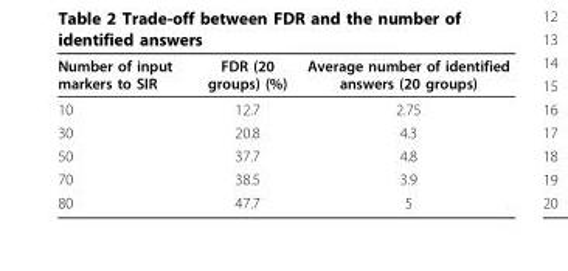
<table><thead><tr><td>Number of input markers to SIR</td><td>FDR (20 groups) (%)</td><td>Average number of identified answers (20 groups)</td></tr></thead><tbody><tr><td>10</td><td>12.7</td><td>2.75</td></tr><tr><td>30</td><td>20.8</td><td>4.3</td></tr><tr><td>50</td><td>37.7</td><td>4.8</td></tr><tr><td>70</td><td>38.5</td><td>3.9</td></tr><tr><td>80</td><td>47.7</td><td>5</td></tr></tbody></table>